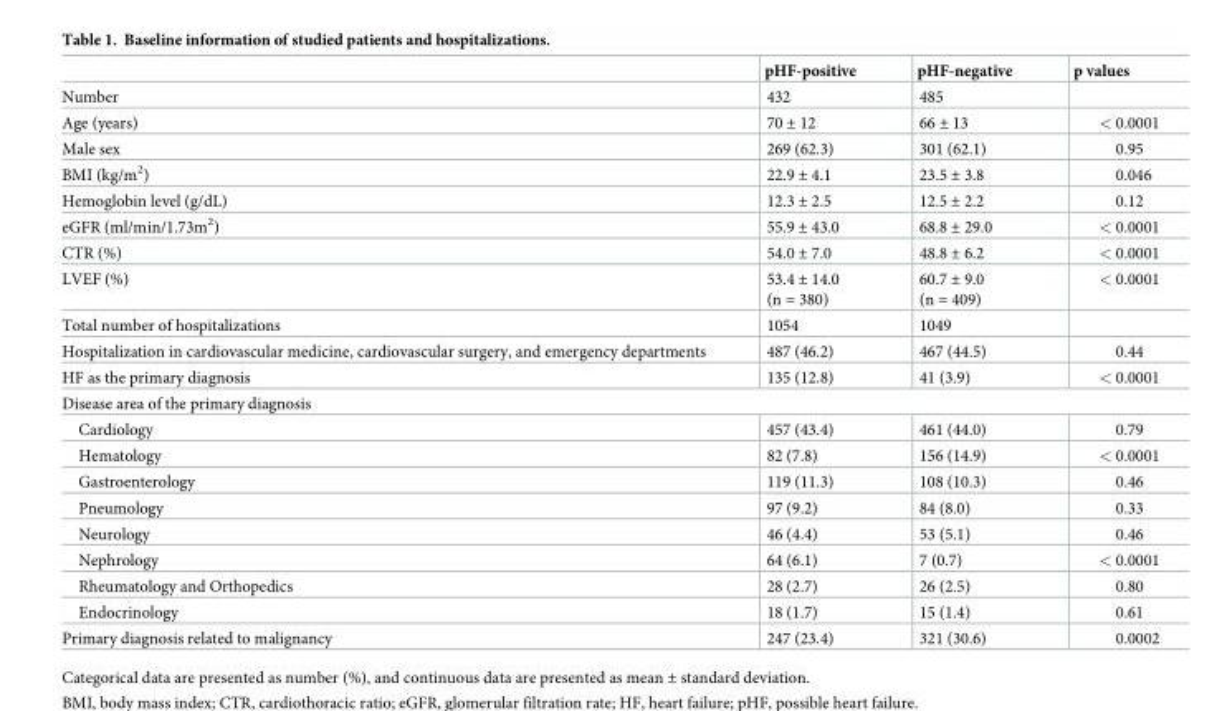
<table><thead><tr><td></td><td>pHF-positive</td><td>pHF-negative</td><td>p values</td></tr></thead><tbody><tr><td>Number</td><td>432</td><td>485</td><td></td></tr><tr><td>Age (years)</td><td>70 ± 12</td><td>66 ± 13</td><td>&lt; 0.0001</td></tr><tr><td>Male sex</td><td>269 (62.3)</td><td>301 (62.1)</td><td>0.95</td></tr><tr><td>BMI (kg/m<sup>2</sup>)</td><td>22.9 ± 4.1</td><td>23.5 ± 3.8</td><td>0.046</td></tr><tr><td>Hemoglobin level (g/dL)</td><td>12.3 ± 2.5</td><td>12.5 ± 2.2</td><td>0.12</td></tr><tr><td>eGFR (ml/min/1.73m<sup>2</sup>)</td><td>55.9 ± 43.0</td><td>68.8 ± 29.0</td><td>&lt; 0.0001</td></tr><tr><td>CTR (%)</td><td>54.0 ± 7.0</td><td>48.8 ± 6.2</td><td>&lt; 0.0001</td></tr><tr><td>LVEF (%)</td><td>53.4 ± 14.0 (n = 380)</td><td>60.7 ± 9.0 (n = 409)</td><td>&lt; 0.0001</td></tr><tr><td>Total number of hospitalizations</td><td>1054</td><td>1049</td><td></td></tr><tr><td>Hospitalization in cardiovascular medicine, cardiovascular surgery, and emergency departments</td><td>487 (46.2)</td><td>467 (44.5)</td><td>0.44</td></tr><tr><td>HF as the primary diagnosis</td><td>135 (12.8)</td><td>41 (3.9)</td><td>&lt; 0.0001</td></tr><tr><td colspan="4">Disease area of the primary diagnosis</td></tr><tr><td>Cardiology</td><td>457 (43.4)</td><td>461 (44.0)</td><td>0.79</td></tr><tr><td>Hematology</td><td>82 (7.8)</td><td>156 (14.9)</td><td>&lt; 0.0001</td></tr><tr><td>Gastroenterology</td><td>119 (11.3)</td><td>108 (10.3)</td><td>0.46</td></tr><tr><td>Pneumology</td><td>97 (9.2)</td><td>84 (8.0)</td><td>0.33</td></tr><tr><td>Neurology</td><td>46 (4.4)</td><td>53 (5.1)</td><td>0.46</td></tr><tr><td>Nephrology</td><td>64 (6.1)</td><td>7 (0.7)</td><td>&lt; 0.0001</td></tr><tr><td>Rheumatology and Orthopedics</td><td>28 (2.7)</td><td>26 (2.5)</td><td>0.80</td></tr><tr><td>Endocrinology</td><td>18 (1.7)</td><td>15 (1.4)</td><td>0.61</td></tr><tr><td>Primary diagnosis related to malignancy</td><td>247 (23.4)</td><td>321 (30.6)</td><td>0.0002</td></tr></tbody></table>